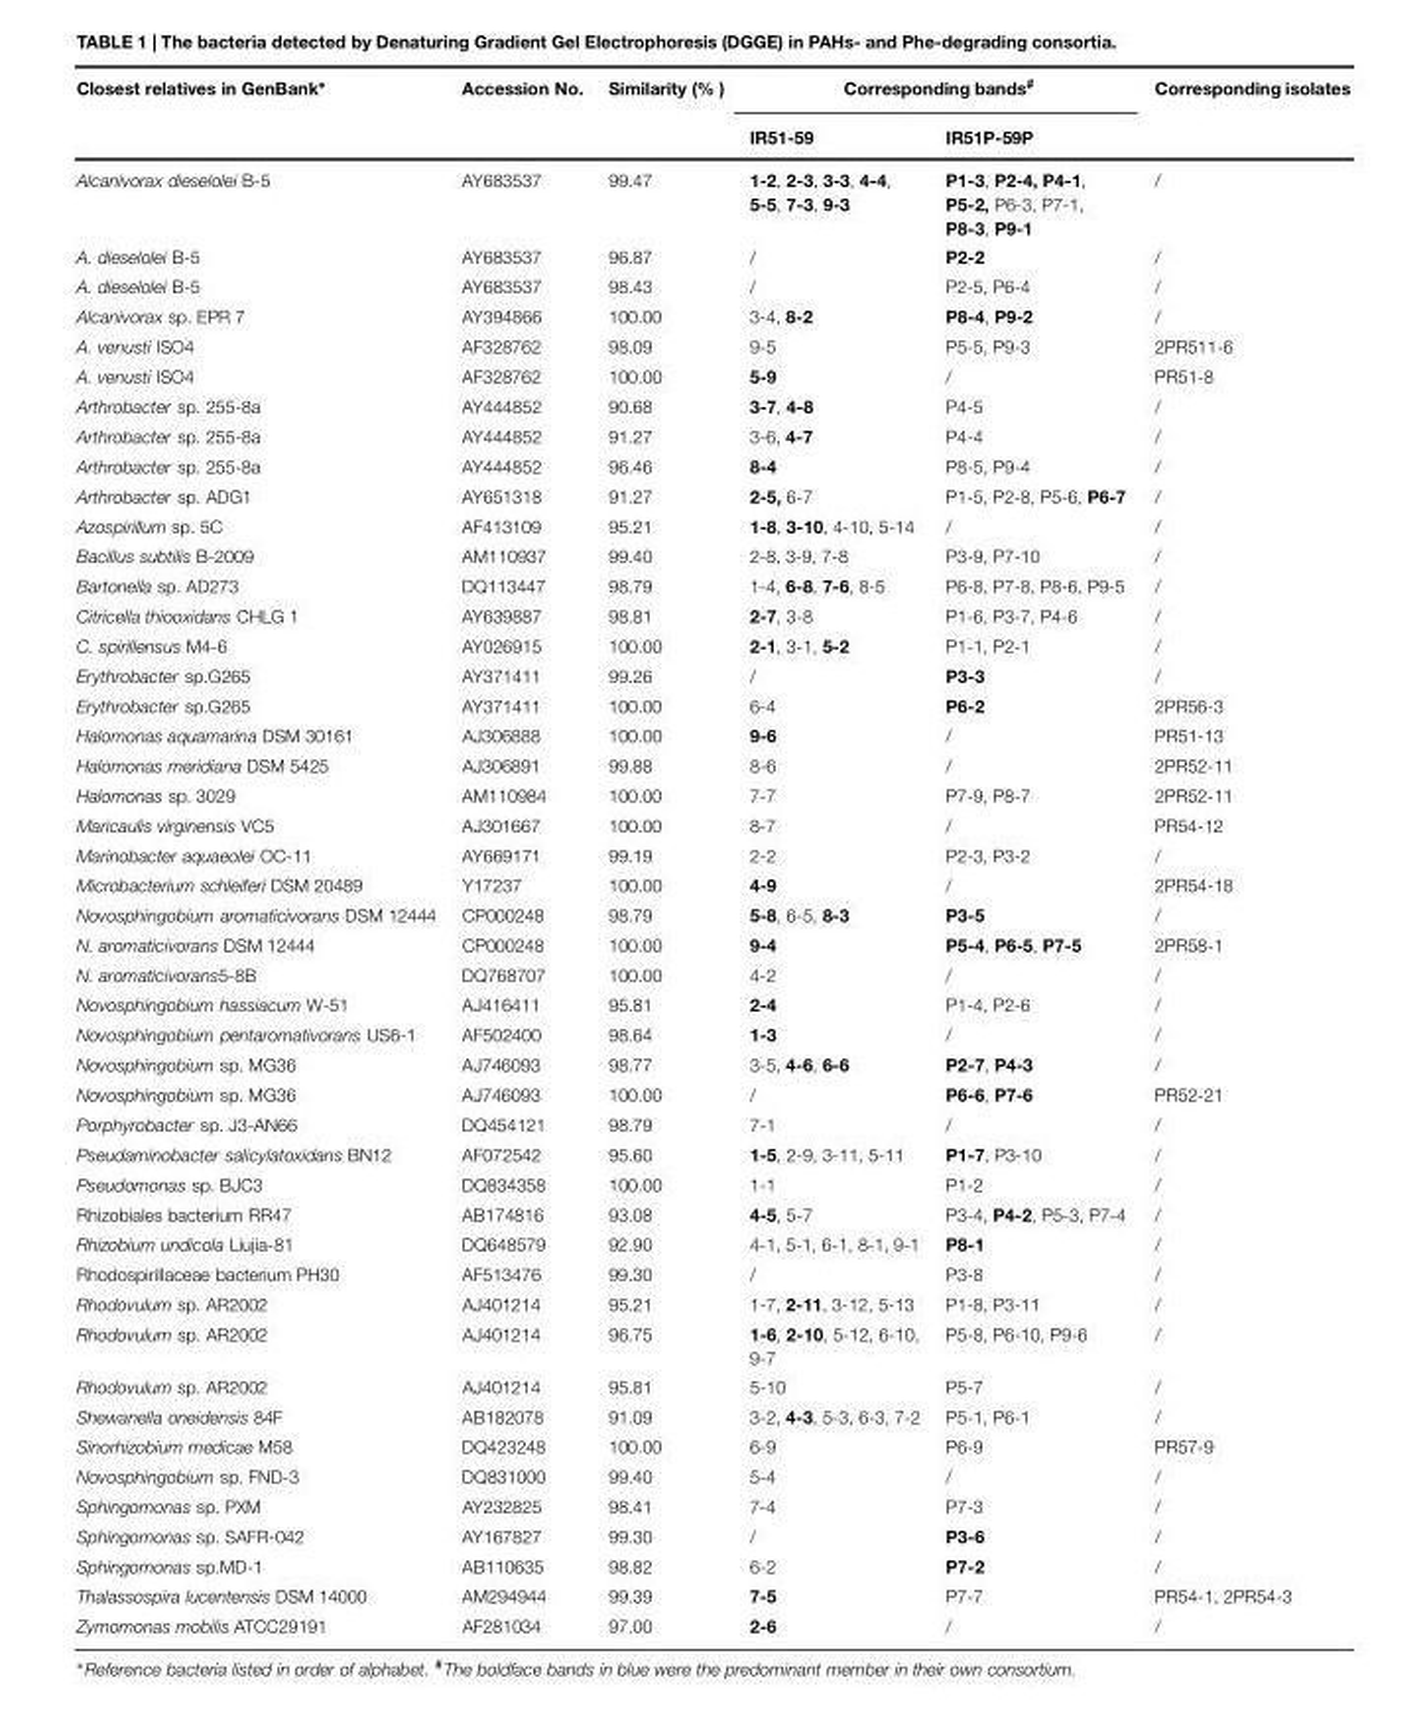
<table><thead><tr><td rowspan="2">Closest relatives in GenBank∗</td><td rowspan="2">Accession No.</td><td rowspan="2">Similarity (% )</td><td colspan="2">Corresponding bands<sup>#</sup></td><td rowspan="2">Corresponding isolates</td></tr><tr><td>IR51-59</td><td>IR51P-59P</td></tr></thead><tbody><tr><td>Alcanivorax dieselolei B-5</td><td>AY683537</td><td>99.47</td><td>1-2, 2-3, 3-3, 4-4, 5-5, 7-3, 9-3</td><td>P1-3, P2-4, P4-1, P5-2, P6-3, P7-1, P8-3, P9-1</td><td>/</td></tr><tr><td>A. dieselolei B-5</td><td>AY683537</td><td>96.87</td><td>/</td><td>P2-2</td><td>/</td></tr><tr><td>A. dieselolei B-5</td><td>AY683537</td><td>98.43</td><td>/</td><td>P2-5, P6-4</td><td>/</td></tr><tr><td>Alcanivorax sp. EPR 7</td><td>AY394866</td><td>100.00</td><td>3-4, 8-2</td><td>P8-4, P9-2</td><td>/</td></tr><tr><td>A. venusti ISO4</td><td>AF328762</td><td>98.09</td><td>9-5</td><td>P5-5, P9-3</td><td>2PR511-6</td></tr><tr><td>A. venusti ISO4</td><td>AF328762</td><td>100.00</td><td>5-9</td><td>/</td><td>PR51-8</td></tr><tr><td>Arthrobacter sp. 255-8a</td><td>AY444852</td><td>90.68</td><td>3-7, 4-8</td><td>P4-5</td><td>/</td></tr><tr><td>Arthrobacter sp. 255-8a</td><td>AY444852</td><td>91.27</td><td>3-6, 4-7</td><td>P4-4</td><td>/</td></tr><tr><td>Arthrobacter sp. 255-8a</td><td>AY444852</td><td>96.46</td><td>8-4</td><td>P8-5, P9-4</td><td>/</td></tr><tr><td>Arthrobacter sp. ADG1</td><td>AY651318</td><td>91.27</td><td>2-5, 6-7</td><td>P1-5, P2-8, P5-6, P6-7</td><td>/</td></tr><tr><td>Azospirillum sp. 5C</td><td>AF413109</td><td>95.21</td><td>1-8, 3-10, 4-10, 5-14</td><td>/</td><td>/</td></tr><tr><td>Bacillus subtilis B-2009</td><td>AM110937</td><td>99.40</td><td>2-8, 3-9, 7-8</td><td>P3-9, P7-10</td><td>/</td></tr><tr><td>Bartonella sp. AD273</td><td>DQ113447</td><td>98.79</td><td>1-4, 6-8, 7-6, 8-5</td><td>P6-8, P7-8, P8-6, P9-5</td><td>/</td></tr><tr><td>Citricella thiooxidans CHLG 1</td><td>AY639887</td><td>98.81</td><td>2-7, 3-8</td><td>P1-6, P3-7, P4-6</td><td>/</td></tr><tr><td>C. spirillensus M4-6</td><td>AY026915</td><td>100.00</td><td>2-1, 3-1, 5-2</td><td>P1-1, P2-1</td><td>/</td></tr><tr><td>Erythrobacter sp.G265</td><td>AY371411</td><td>99.26</td><td>/</td><td>P3-3</td><td>/</td></tr><tr><td>Erythrobacter sp.G265</td><td>AY371411</td><td>100.00</td><td>6-4</td><td>P6-2</td><td>2PR56-3</td></tr><tr><td>Halomonas aquamarina DSM 30161</td><td>AJ306888</td><td>100.00</td><td>9-6</td><td>/</td><td>PR51-13</td></tr><tr><td>Halomonas meridiana DSM 5425</td><td>AJ306891</td><td>99.88</td><td>8-6</td><td>/</td><td>2PR52-11</td></tr><tr><td>Halomonas sp. 3029</td><td>AM110984</td><td>100.00</td><td>7-7</td><td>P7-9, P8-7</td><td>2PR52-11</td></tr><tr><td>Maricaulis virginensis VC5</td><td>AJ301667</td><td>100.00</td><td>8-7</td><td>/</td><td>PR54-12</td></tr><tr><td>Marinobacter aquaeolei OC-11</td><td>AY669171</td><td>99.19</td><td>2-2</td><td>P2-3, P3-2</td><td>/</td></tr><tr><td>Microbacterium schleiferi DSM 20489</td><td>Y17237</td><td>100.00</td><td>4-9</td><td>/</td><td>2PR54-18</td></tr><tr><td>Novosphingobium aromaticivorans DSM 12444</td><td>CP000248</td><td>98.79</td><td>5-8, 6-5, 8-3</td><td>P3-5</td><td>/</td></tr><tr><td>N. aromaticivorans DSM 12444</td><td>CP000248</td><td>100.00</td><td>9-4</td><td>P5-4, P6-5, P7-5</td><td>2PR58-1</td></tr><tr><td>N. aromaticivorans5-8B</td><td>DQ768707</td><td>100.00</td><td>4-2</td><td>/</td><td>/</td></tr><tr><td>Novosphingobium hassiacum W-51</td><td>AJ416411</td><td>95.81</td><td>2-4</td><td>P1-4, P2-6</td><td>/</td></tr><tr><td>Novosphingobium pentaromativorans US6-1</td><td>AF502400</td><td>98.64</td><td>1-3</td><td>/</td><td>/</td></tr><tr><td>Novosphingobium sp. MG36</td><td>AJ746093</td><td>98.77</td><td>3-5, 4-6, 6-6</td><td>P2-7, P4-3</td><td>/</td></tr><tr><td>Novosphingobium sp. MG36</td><td>AJ746093</td><td>100.00</td><td>/</td><td>P6-6, P7-6</td><td>PR52-21</td></tr><tr><td>Porphyrobacter sp. J3-AN66</td><td>DQ454121</td><td>98.79</td><td>7-1</td><td>/</td><td>/</td></tr><tr><td>Pseudaminobacter salicylatoxidans BN12</td><td>AF072542</td><td>95.60</td><td>1-5, 2-9, 3-11, 5-11</td><td>P1-7, P3-10</td><td>/</td></tr><tr><td>Pseudomonas sp. BJC3</td><td>DQ834358</td><td>100.00</td><td>1-1</td><td>P1-2</td><td>/</td></tr><tr><td>Rhizobiales bacterium RR47</td><td>AB174816</td><td>93.08</td><td>4-5, 5-7</td><td>P3-4, P4-2, P5-3, P7-4</td><td>/</td></tr><tr><td>Rhizobium undicola Liujia-81</td><td>DQ648579</td><td>92.90</td><td>4-1, 5-1, 6-1, 8-1, 9-1</td><td>P8-1</td><td>/</td></tr><tr><td>Rhodospirillaceae bacterium PH30</td><td>AF513476</td><td>99.30</td><td>/</td><td>P3-8</td><td>/</td></tr><tr><td>Rhodovulum sp. AR2002</td><td>AJ401214</td><td>95.21</td><td>1-7, 2-11, 3-12, 5-13</td><td>P1-8, P3-11</td><td>/</td></tr><tr><td>Rhodovulum sp. AR2002</td><td>AJ401214</td><td>96.75</td><td>1-6, 2-10, 5-12, 6-10, 9-7</td><td>P5-8, P6-10, P9-6</td><td>/</td></tr><tr><td>Rhodovulum sp. AR2002</td><td>AJ401214</td><td>95.81</td><td>5-10</td><td>P5-7</td><td>/</td></tr><tr><td>Shewanella oneidensis 84F</td><td>AB182078</td><td>91.09</td><td>3-2, 4-3, 5-3, 6-3, 7-2</td><td>P5-1, P6-1</td><td>/</td></tr><tr><td>Sinorhizobium medicae M58</td><td>DQ423248</td><td>100.00</td><td>6-9</td><td>P6-9</td><td>PR57-9</td></tr><tr><td>Novosphingobium sp. FND-3</td><td>DQ831000</td><td>99.40</td><td>5-4</td><td>/</td><td>/</td></tr><tr><td>Sphingomonas sp. PXM</td><td>AY232825</td><td>98.41</td><td>7-4</td><td>P7-3</td><td>/</td></tr><tr><td>Sphingomonas sp. SAFR-042</td><td>AY167827</td><td>99.30</td><td>/</td><td>P3-6</td><td>/</td></tr><tr><td>Sphingomonas sp.MD-1</td><td>AB110635</td><td>98.82</td><td>6-2</td><td>P7-2</td><td>/</td></tr><tr><td>Thalassospira lucentensis DSM 14000</td><td>AM294944</td><td>99.39</td><td>7-5</td><td>P7-7</td><td>PR54-1, 2PR54-3</td></tr><tr><td>Zymomonas mobilis ATCC29191</td><td>AF281034</td><td>97.00</td><td>2-6</td><td>/</td><td>/</td></tr></tbody></table>